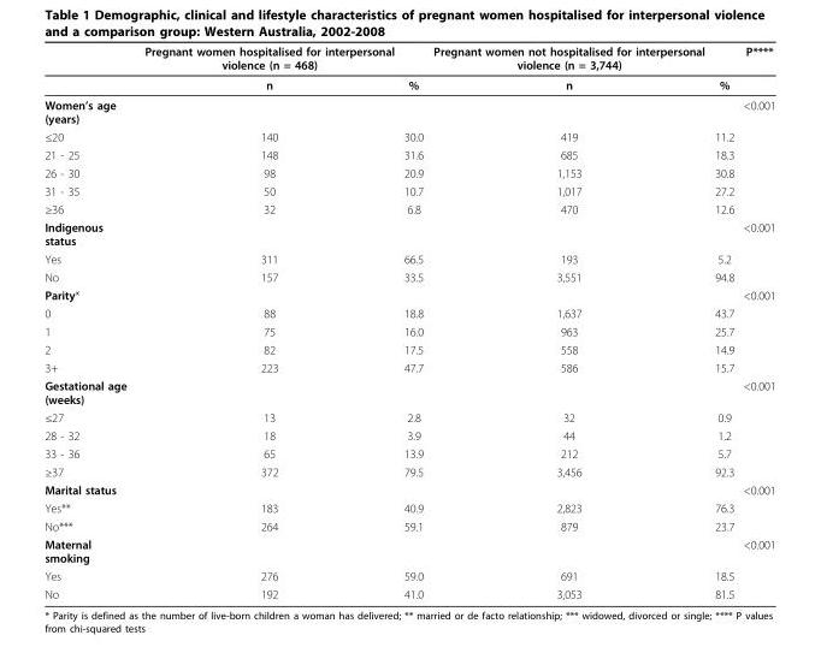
<table><thead><tr><td></td><td>Pregnant women hospitalised for interpersonal violence (n = 468)</td><td></td><td>Pregnant women not hospitalised for interpersonal violence (n = 3,744)</td><td></td><td>P****</td></tr></thead><tbody><tr><td></td><td>n</td><td>%</td><td>n</td><td>%</td><td></td></tr><tr><td>Women’s age (years)</td><td></td><td></td><td></td><td></td><td>&lt;0.001</td></tr><tr><td>≤20</td><td>140</td><td>30.0</td><td>419</td><td>11.2</td><td></td></tr><tr><td>21 - 25</td><td>148</td><td>31.6</td><td>685</td><td>18.3</td><td></td></tr><tr><td>26 - 30</td><td>98</td><td>20.9</td><td>1,153</td><td>30.8</td><td></td></tr><tr><td>31 - 35</td><td>50</td><td>10.7</td><td>1,017</td><td>27.2</td><td></td></tr><tr><td>≥36</td><td>32</td><td>6.8</td><td>470</td><td>12.6</td><td></td></tr><tr><td>Indigenous status</td><td></td><td></td><td></td><td></td><td>&lt;0.001</td></tr><tr><td>Yes</td><td>311</td><td>66.5</td><td>193</td><td>5.2</td><td></td></tr><tr><td>No</td><td>157</td><td>33.5</td><td>3,551</td><td>94.8</td><td></td></tr><tr><td>Parity*</td><td></td><td></td><td></td><td></td><td>&lt;0.001</td></tr><tr><td>0</td><td>88</td><td>18.8</td><td>1,637</td><td>43.7</td><td></td></tr><tr><td>1</td><td>75</td><td>16.0</td><td>963</td><td>25.7</td><td></td></tr><tr><td>2</td><td>82</td><td>17.5</td><td>558</td><td>14.9</td><td></td></tr><tr><td>3+</td><td>223</td><td>47.7</td><td>586</td><td>15.7</td><td></td></tr><tr><td>Gestational age (weeks)</td><td></td><td></td><td></td><td></td><td>&lt;0.001</td></tr><tr><td>≤27</td><td>13</td><td>2.8</td><td>32</td><td>0.9</td><td></td></tr><tr><td>28 - 32</td><td>18</td><td>3.9</td><td>44</td><td>1.2</td><td></td></tr><tr><td>33 - 36</td><td>65</td><td>13.9</td><td>212</td><td>5.7</td><td></td></tr><tr><td>≥37</td><td>372</td><td>79.5</td><td>3,456</td><td>92.3</td><td></td></tr><tr><td>Marital status</td><td></td><td></td><td></td><td></td><td>&lt;0.001</td></tr><tr><td>Yes**</td><td>183</td><td>40.9</td><td>2,823</td><td>76.3</td><td></td></tr><tr><td>No***</td><td>264</td><td>59.1</td><td>879</td><td>23.7</td><td></td></tr><tr><td>Maternal smoking</td><td></td><td></td><td></td><td></td><td>&lt;0.001</td></tr><tr><td>Yes</td><td>276</td><td>59.0</td><td>691</td><td>18.5</td><td></td></tr><tr><td>No</td><td>192</td><td>41.0</td><td>3,053</td><td>81.5</td><td></td></tr></tbody></table>